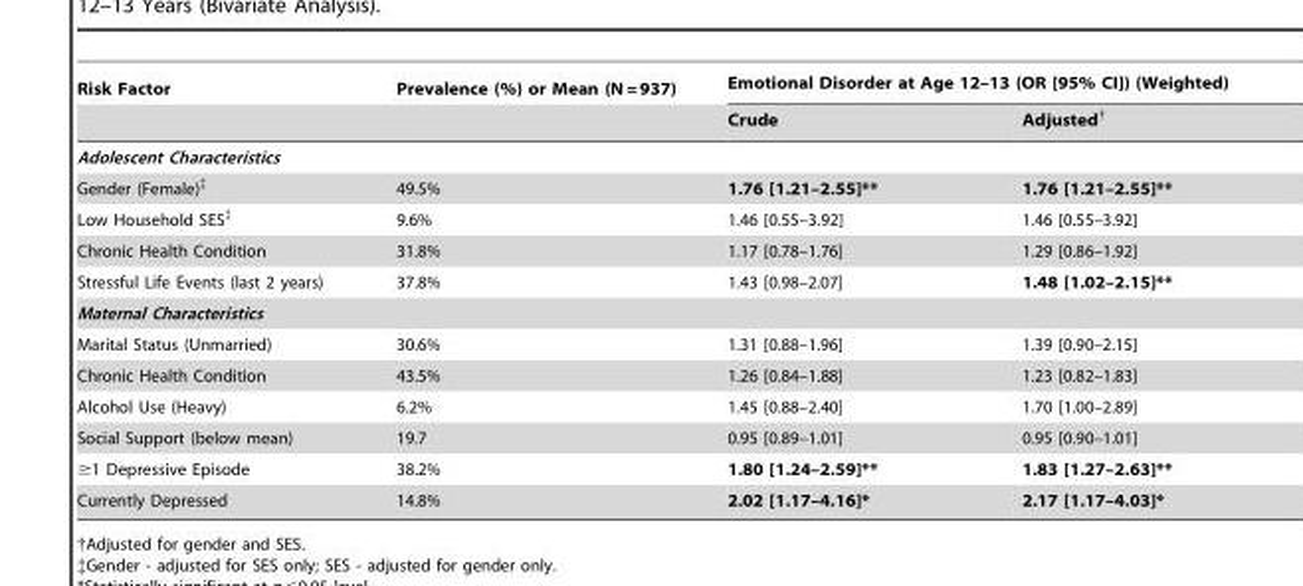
<table><thead><tr><td rowspan="2">Risk Factor</td><td rowspan="2">Prevalence (%) or Mean (N = 937)</td><td colspan="2">Emotional Disorder at Age 12–13 (OR [95% CI]) (Weighted)</td></tr><tr><td>Crude</td><td>Adjusted†</td></tr></thead><tbody><tr><td colspan="4">Adolescent Characteristics</td></tr><tr><td>Gender (Female)‡</td><td>49.5%</td><td>1.76 [1.21–2.55]**</td><td>1.76 [1.21–2.55]**</td></tr><tr><td>Low Household SES‡</td><td>9.6%</td><td>1.46 [0.55–3.92]</td><td>1.46 [0.55–3.92]</td></tr><tr><td>Chronic Health Condition</td><td>31.8%</td><td>1.17 [0.78–1.76]</td><td>1.29 [0.86–1.92]</td></tr><tr><td>Stressful Life Events (last 2 years)</td><td>37.8%</td><td>1.43 [0.98–2.07]</td><td>1.48 [1.02–2.15]**</td></tr><tr><td colspan="4">Maternal Characteristics</td></tr><tr><td>Marital Status (Unmarried)</td><td>30.6%</td><td>1.31 [0.88–1.96]</td><td>1.39 [0.90–2.15]</td></tr><tr><td>Chronic Health Condition</td><td>43.5%</td><td>1.26 [0.84–1.88]</td><td>1.23 [0.82–1.83]</td></tr><tr><td>Alcohol Use (Heavy)</td><td>6.2%</td><td>1.45 [0.88–2.40]</td><td>1.70 [1.00–2.89]</td></tr><tr><td>Social Support (below mean)</td><td>19.7</td><td>0.95 [0.89–1.01]</td><td>0.95 [0.90–1.01]</td></tr><tr><td>≥1 Depressive Episode</td><td>38.2%</td><td>1.80 [1.24–2.59]**</td><td>1.83 [1.27–2.63]**</td></tr><tr><td>Currently Depressed</td><td>14.8%</td><td>2.02 [1.17–4.16]*</td><td>2.17 [1.17–4.03]*</td></tr></tbody></table>